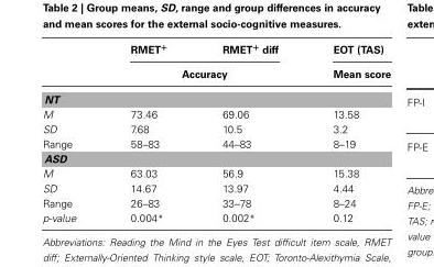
<table><thead><tr><td rowspan="2"></td><td>RMET<sup>+</sup></td><td>RMET<sup>+</sup> diff</td><td rowspan="2">EOT (TAS) Mean score</td></tr><tr><td colspan="2">Accuracy</td></tr></thead><tbody><tr><td colspan="4">NT</td></tr><tr><td>M</td><td>73.46</td><td>69.06</td><td>13.58</td></tr><tr><td>SD</td><td>7.68</td><td>10.5</td><td>3.2</td></tr><tr><td>Range</td><td>58–83</td><td>44–83</td><td>8–19</td></tr><tr><td colspan="4">ASD</td></tr><tr><td>M</td><td>63.03</td><td>56.9</td><td>15.38</td></tr><tr><td>SD</td><td>14.67</td><td>13.97</td><td>4.44</td></tr><tr><td>Range</td><td>26–83</td><td>33–78</td><td>8–24</td></tr><tr><td>p-value</td><td>0.004*</td><td>0.002*</td><td>0.12</td></tr></tbody></table>